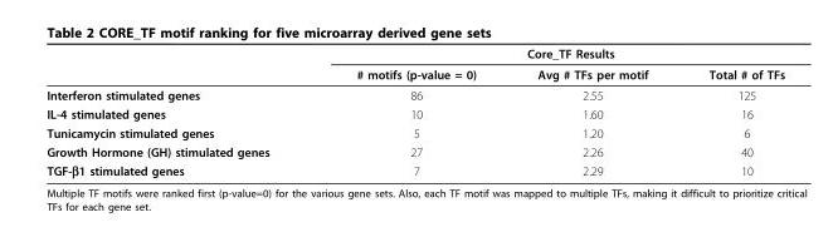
<table><thead><tr><td rowspan="2"></td><td colspan="3">Core_TF Results</td></tr><tr><td># motifs (p-value = 0)</td><td>Avg # TFs per motif</td><td>Total # of TFs</td></tr></thead><tbody><tr><td>Interferon stimulated genes</td><td>86</td><td>2.55</td><td>125</td></tr><tr><td>IL-4 stimulated genes</td><td>10</td><td>1.60</td><td>16</td></tr><tr><td>Tunicamycin stimulated genes</td><td>5</td><td>1.20</td><td>6</td></tr><tr><td>Growth Hormone (GH) stimulated genes</td><td>27</td><td>2.26</td><td>40</td></tr><tr><td>TGF-β1 stimulated genes</td><td>7</td><td>2.29</td><td>10</td></tr></tbody></table>